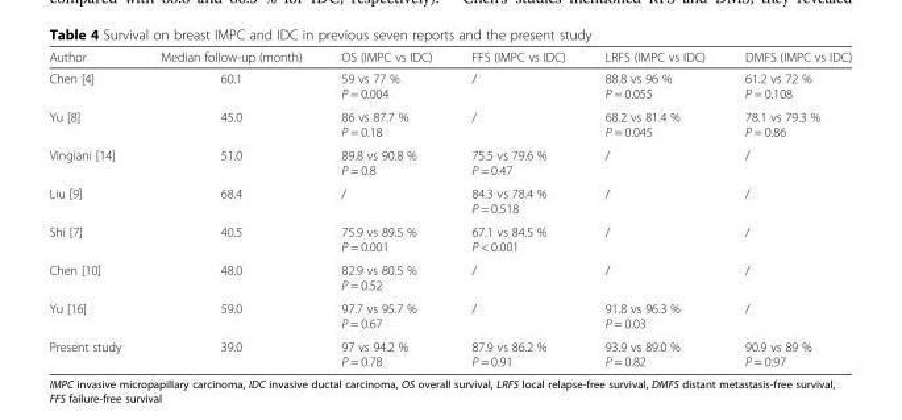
<table><thead><tr><td>Author</td><td>Median follow-up (month)</td><td>OS (IMPC vs IDC)</td><td>FFS (IMPC vs IDC)</td><td>LRFS (IMPC vs IDC)</td><td>DMFS (IMPC vs IDC)</td></tr></thead><tbody><tr><td>Chen [4]</td><td>60.1</td><td>59 vs 77 % P = 0.004</td><td>/</td><td>88.8 vs 96 % P = 0.055</td><td>61.2 vs 72 % P = 0.108</td></tr><tr><td>Yu [8]</td><td>45.0</td><td>86 vs 87.7 % P = 0.18</td><td>/</td><td>68.2 vs 81.4 % P = 0.045</td><td>78.1 vs 79.3 % P = 0.86</td></tr><tr><td>Vingiani [14]</td><td>51.0</td><td>89.8 vs 90.8 % P = 0.8</td><td>75.5 vs 79.6 % P = 0.47</td><td>/</td><td>/</td></tr><tr><td>Liu [9]</td><td>68.4</td><td>/</td><td>84.3 vs 78.4 % P = 0.518</td><td>/</td><td>/</td></tr><tr><td>Shi [7]</td><td>40.5</td><td>75.9 vs 89.5 % P = 0.001</td><td>67.1 vs 84.5 % P &lt; 0.001</td><td>/</td><td>/</td></tr><tr><td>Chen [10]</td><td>48.0</td><td>82.9 vs 80.5 % P = 0.52</td><td>/</td><td>/</td><td>/</td></tr><tr><td>Yu [16]</td><td>59.0</td><td>97.7 vs 95.7 % P = 0.67</td><td>/</td><td>91.8 vs 96.3 % P = 0.03</td><td>/</td></tr><tr><td>Present study</td><td>39.0</td><td>97 vs 94.2 % P = 0.78</td><td>87.9 vs 86.2 % P = 0.91</td><td>93.9 vs 89.0 % P = 0.82</td><td>90.9 vs 89 % P = 0.97</td></tr></tbody></table>